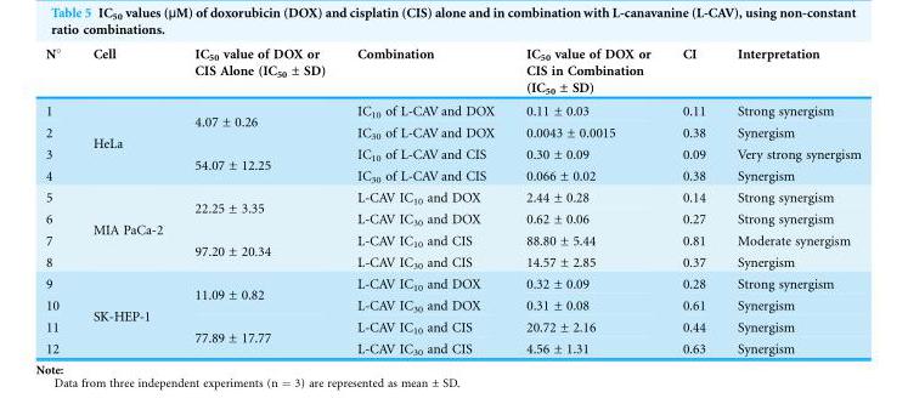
<table><thead><tr><td>N°</td><td>Cell</td><td>IC<sub>50</sub> value of DOX or CIS Alone (IC<sub>50</sub> ± SD)</td><td>Combination</td><td>IC<sub>50</sub> value of DOX or CIS in Combination (IC<sub>50</sub> ± SD)</td><td>CI</td><td>Interpretation</td></tr></thead><tbody><tr><td>1</td><td rowspan="4">HeLa</td><td rowspan="2">4.07 ± 0.26</td><td>IC<sub>10</sub> of L-CAV and DOX</td><td>0.11 ± 0.03</td><td>0.11</td><td>Strong synergism</td></tr><tr><td>2</td><td>IC<sub>30</sub> of L-CAV and DOX</td><td>0.0043 ± 0.0015</td><td>0.38</td><td>Synergism</td></tr><tr><td>3</td><td rowspan="2">54.07 ± 12.25</td><td>IC<sub>10</sub> of L-CAV and CIS</td><td>0.30 ± 0.09</td><td>0.09</td><td>Very strong synergism</td></tr><tr><td>4</td><td>IC<sub>30</sub> of L-CAV and CIS</td><td>0.066 ± 0.02</td><td>0.38</td><td>Synergism</td></tr><tr><td>5</td><td rowspan="4">MIA PaCa-2</td><td rowspan="2">22.25 ± 3.35</td><td>L-CAV IC<sub>10</sub> and DOX</td><td>2.44 ± 0.28</td><td>0.14</td><td>Strong synergism</td></tr><tr><td>6</td><td>L-CAV IC<sub>30</sub> and DOX</td><td>0.62 ± 0.06</td><td>0.27</td><td>Strong synergism</td></tr><tr><td>7</td><td rowspan="2">97.20 ± 20.34</td><td>L-CAV IC<sub>10</sub> and CIS</td><td>88.80 ± 5.44</td><td>0.81</td><td>Moderate synergism</td></tr><tr><td>8</td><td>L-CAV IC<sub>30</sub> and CIS</td><td>14.57 ± 2.85</td><td>0.37</td><td>Synergism</td></tr><tr><td>9</td><td rowspan="4">SK-HEP-1</td><td rowspan="2">11.09 ± 0.82</td><td>L-CAV IC<sub>10</sub> and DOX</td><td>0.32 ± 0.09</td><td>0.28</td><td>Strong synergism</td></tr><tr><td>10</td><td>L-CAV IC<sub>30</sub> and DOX</td><td>0.31 ± 0.08</td><td>0.61</td><td>Synergism</td></tr><tr><td>11</td><td rowspan="2">77.89 ± 17.77</td><td>L-CAV IC<sub>10</sub> and CIS</td><td>20.72 ± 2.16</td><td>0.44</td><td>Synergism</td></tr><tr><td>12</td><td>L-CAV IC<sub>30</sub> and CIS</td><td>4.56 ± 1.31</td><td>0.63</td><td>Synergism</td></tr></tbody></table>